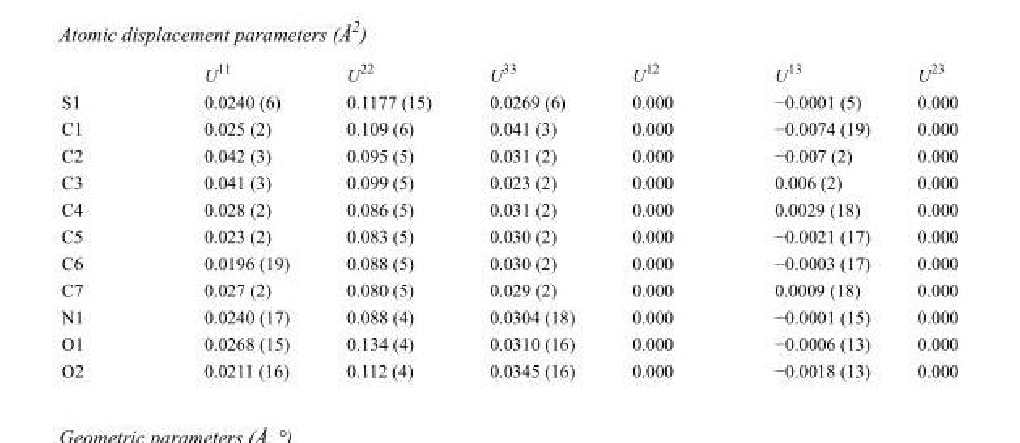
<table><thead><tr><td></td><td>U<sup>11</sup></td><td>U<sup>22</sup></td><td>U<sup>33</sup></td><td>U<sup>12</sup></td><td>U<sup>13</sup></td><td>U<sup>23</sup></td></tr></thead><tbody><tr><td>S1</td><td>0.0240 (6)</td><td>0.1177 (15)</td><td>0.0269 (6)</td><td>0.000</td><td>−0.0001 (5)</td><td>0.000</td></tr><tr><td>C1</td><td>0.025 (2)</td><td>0.109 (6)</td><td>0.041 (3)</td><td>0.000</td><td>−0.0074 (19)</td><td>0.000</td></tr><tr><td>C2</td><td>0.042 (3)</td><td>0.095 (5)</td><td>0.031 (2)</td><td>0.000</td><td>−0.007 (2)</td><td>0.000</td></tr><tr><td>C3</td><td>0.041 (3)</td><td>0.099 (5)</td><td>0.023 (2)</td><td>0.000</td><td>0.006 (2)</td><td>0.000</td></tr><tr><td>C4</td><td>0.028 (2)</td><td>0.086 (5)</td><td>0.031 (2)</td><td>0.000</td><td>0.0029 (18)</td><td>0.000</td></tr><tr><td>C5</td><td>0.023 (2)</td><td>0.083 (5)</td><td>0.030 (2)</td><td>0.000</td><td>−0.0021 (17)</td><td>0.000</td></tr><tr><td>C6</td><td>0.0196 (19)</td><td>0.088 (5)</td><td>0.030 (2)</td><td>0.000</td><td>−0.0003 (17)</td><td>0.000</td></tr><tr><td>C7</td><td>0.027 (2)</td><td>0.080 (5)</td><td>0.029 (2)</td><td>0.000</td><td>0.0009 (18)</td><td>0.000</td></tr><tr><td>N1</td><td>0.0240 (17)</td><td>0.088 (4)</td><td>0.0304 (18)</td><td>0.000</td><td>−0.0001 (15)</td><td>0.000</td></tr><tr><td>O1</td><td>0.0268 (15)</td><td>0.134 (4)</td><td>0.0310 (16)</td><td>0.000</td><td>−0.0006 (13)</td><td>0.000</td></tr><tr><td>O2</td><td>0.0211 (16)</td><td>0.112 (4)</td><td>0.0345 (16)</td><td>0.000</td><td>−0.0018 (13)</td><td>0.000</td></tr></tbody></table>